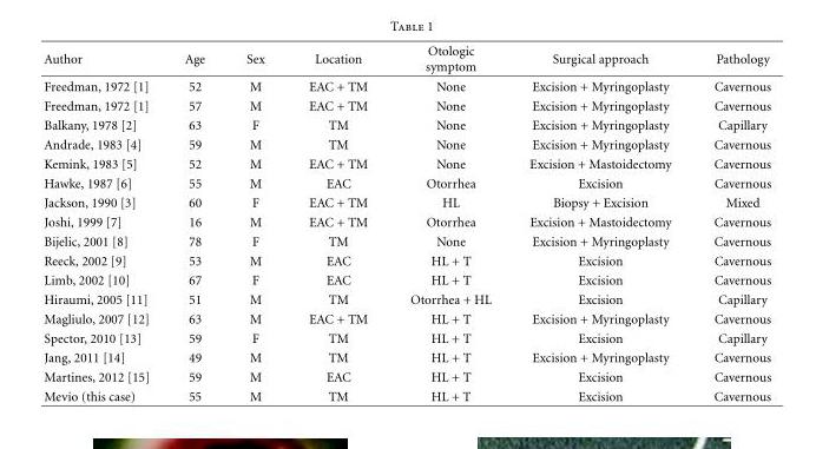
<table><thead><tr><td>Author</td><td>Age</td><td>Sex</td><td>Location</td><td>Otologic symptom</td><td>Surgical approach</td><td>Pathology</td></tr></thead><tbody><tr><td>Freedman, 1972 [1]</td><td>52</td><td>M</td><td>EAC + TM</td><td>None</td><td>Excision + Myringoplasty</td><td>Cavernous</td></tr><tr><td>Freedman, 1972 [1]</td><td>57</td><td>M</td><td>EAC + TM</td><td>None</td><td>Excision + Myringoplasty</td><td>Cavernous</td></tr><tr><td>Balkany, 1978 [2]</td><td>63</td><td>F</td><td>TM</td><td>None</td><td>Excision + Myringoplasty</td><td>Capillary</td></tr><tr><td>Andrade, 1983 [4]</td><td>59</td><td>M</td><td>TM</td><td>None</td><td>Excision + Myringoplasty</td><td>Cavernous</td></tr><tr><td>Kemink, 1983 [5]</td><td>52</td><td>M</td><td>EAC + TM</td><td>None</td><td>Excision + Mastoidectomy</td><td>Cavernous</td></tr><tr><td>Hawke, 1987 [6]</td><td>55</td><td>M</td><td>EAC</td><td>Otorrhea</td><td>Excision</td><td>Cavernous</td></tr><tr><td>Jackson, 1990 [3]</td><td>60</td><td>F</td><td>EAC + TM</td><td>HL</td><td>Biopsy + Excision</td><td>Mixed</td></tr><tr><td>Joshi, 1999 [7]</td><td>16</td><td>M</td><td>EAC + TM</td><td>Otorrhea</td><td>Excision + Mastoidectomy</td><td>Cavernous</td></tr><tr><td>Bijelic, 2001 [8]</td><td>78</td><td>F</td><td>TM</td><td>None</td><td>Excision + Myringoplasty</td><td>Cavernous</td></tr><tr><td>Reeck, 2002 [9]</td><td>53</td><td>M</td><td>EAC</td><td>HL + T</td><td>Excision</td><td>Cavernous</td></tr><tr><td>Limb, 2002 [10]</td><td>67</td><td>F</td><td>EAC</td><td>HL + T</td><td>Excision</td><td>Cavernous</td></tr><tr><td>Hiraumi, 2005 [11]</td><td>51</td><td>M</td><td>TM</td><td>Otorrhea + HL</td><td>Excision</td><td>Capillary</td></tr><tr><td>Magliulo, 2007 [12]</td><td>63</td><td>M</td><td>EAC + TM</td><td>HL + T</td><td>Excision + Myringoplasty</td><td>Cavernous</td></tr><tr><td>Spector, 2010 [13]</td><td>59</td><td>F</td><td>TM</td><td>HL + T</td><td>Excision</td><td>Capillary</td></tr><tr><td>Jang, 2011 [14]</td><td>49</td><td>M</td><td>TM</td><td>HL + T</td><td>Excision + Myringoplasty</td><td>Cavernous</td></tr><tr><td>Martines, 2012 [15]</td><td>59</td><td>M</td><td>EAC</td><td>HL + T</td><td>Excision</td><td>Cavernous</td></tr><tr><td>Mevio (this case)</td><td>55</td><td>M</td><td>TM</td><td>HL + T</td><td>Excision</td><td>Cavernous</td></tr></tbody></table>